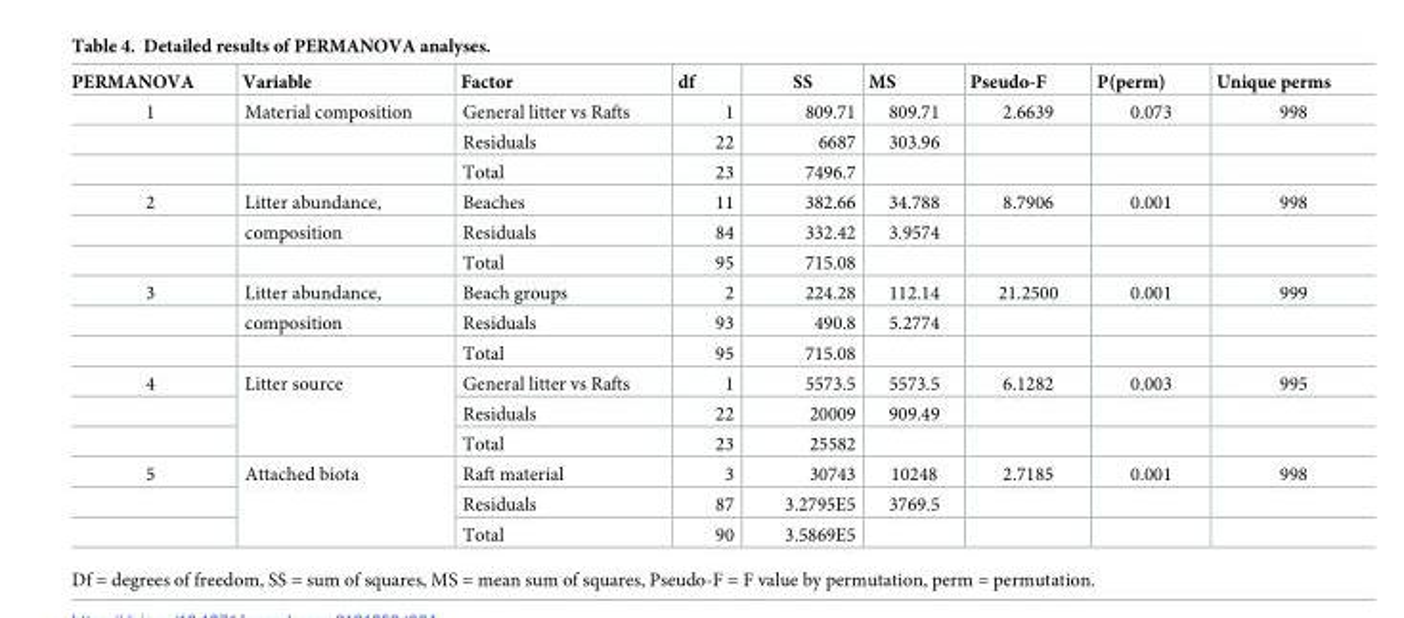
<table><thead><tr><td>PERMANOVA</td><td>Variable</td><td>Factor</td><td>df</td><td>SS</td><td>MS</td><td>Pseudo-F</td><td>P(perm)</td><td>Unique perms</td></tr></thead><tbody><tr><td rowspan="3">1</td><td>Material composition</td><td>General litter vs Rafts</td><td>1</td><td>809.71</td><td>809.71</td><td>2.6639</td><td>0.073</td><td>998</td></tr><tr><td></td><td>Residuals</td><td>22</td><td>6687</td><td>303.96</td><td></td><td></td><td></td></tr><tr><td></td><td>Total</td><td>23</td><td>7496.7</td><td></td><td></td><td></td><td></td></tr><tr><td rowspan="3">2</td><td>Litter abundance,</td><td>Beaches</td><td>11</td><td>382.66</td><td>34.788</td><td>8.7906</td><td>0.001</td><td>998</td></tr><tr><td>composition</td><td>Residuals</td><td>84</td><td>332.42</td><td>3.9574</td><td></td><td></td><td></td></tr><tr><td></td><td>Total</td><td>95</td><td>715.08</td><td></td><td></td><td></td><td></td></tr><tr><td rowspan="3">3</td><td>Litter abundance,</td><td>Beach groups</td><td>2</td><td>224.28</td><td>112.14</td><td>21.2500</td><td>0.001</td><td>999</td></tr><tr><td>composition</td><td>Residuals</td><td>93</td><td>490.8</td><td>5.2774</td><td></td><td></td><td></td></tr><tr><td></td><td>Total</td><td>95</td><td>715.08</td><td></td><td></td><td></td><td></td></tr><tr><td rowspan="3">4</td><td rowspan="3">Litter source</td><td>General litter vs Rafts</td><td>1</td><td>5573.5</td><td>5573.5</td><td>6.1282</td><td>0.003</td><td>995</td></tr><tr><td>Residuals</td><td>22</td><td>20009</td><td>909.49</td><td></td><td></td><td></td></tr><tr><td>Total</td><td>23</td><td>25582</td><td></td><td></td><td></td><td></td></tr><tr><td rowspan="3">5</td><td rowspan="3">Attached biota</td><td>Raft material</td><td>3</td><td>30743</td><td>10248</td><td>2.7185</td><td>0.001</td><td>998</td></tr><tr><td>Residuals</td><td>87</td><td>3.2795E5</td><td>3769.5</td><td></td><td></td><td></td></tr><tr><td>Total</td><td>90</td><td>3.5869E5</td><td></td><td></td><td></td><td></td></tr></tbody></table>